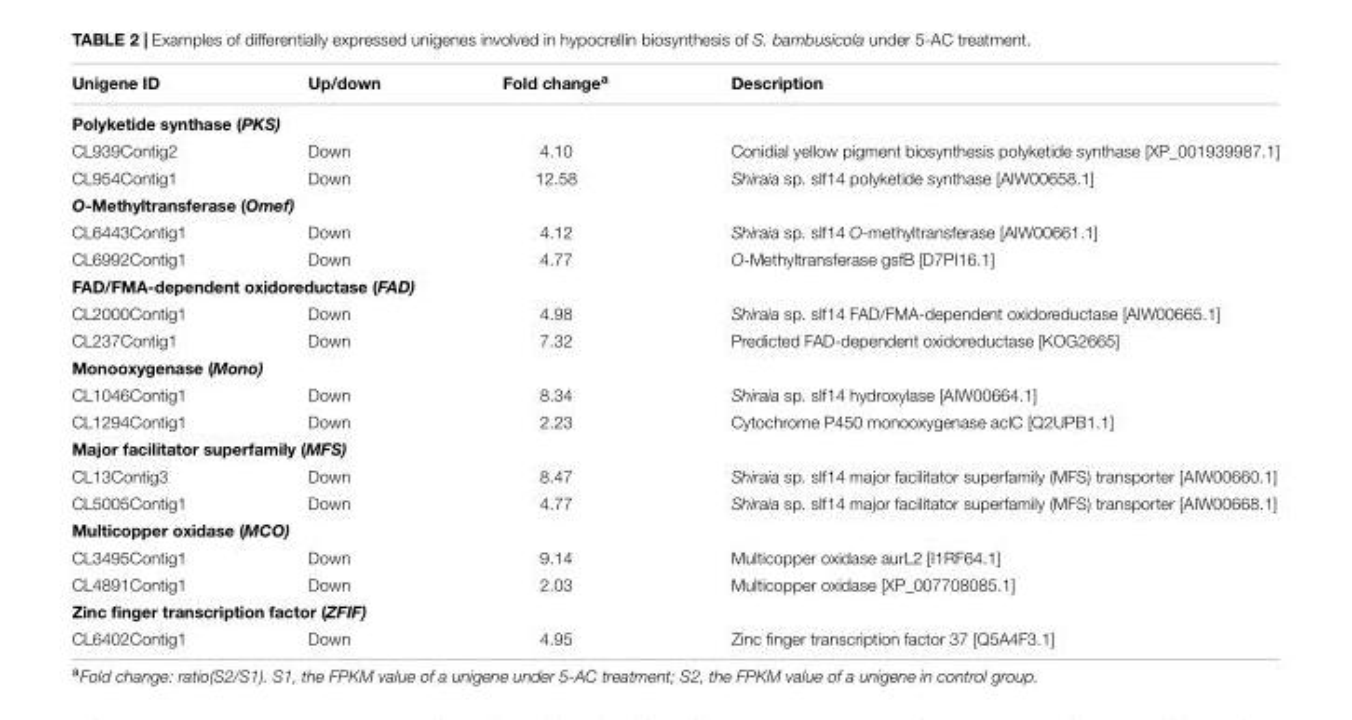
<table><thead><tr><td>Unigene ID</td><td>Up/down</td><td>Fold change<sup>a</sup></td><td>Description</td></tr></thead><tbody><tr><td colspan="4">Polyketide synthase (PKS)</td></tr><tr><td>CL939Contig2</td><td>Down</td><td>4.10</td><td>Conidial yellow pigment biosynthesis polyketide synthase [XP_001939987.1]</td></tr><tr><td>CL954Contig1</td><td>Down</td><td>12.58</td><td>Shiraia sp. slf14 polyketide synthase [AIW00658.1]</td></tr><tr><td colspan="4">O-Methyltransferase (Omef)</td></tr><tr><td>CL6443Contig1</td><td>Down</td><td>4.12</td><td>Shiraia sp. slf14 O-methyltransferase [AIW00661.1]</td></tr><tr><td>CL6992Contig1</td><td>Down</td><td>4.77</td><td>O-Methyltransferase gsfB [D7PI16.1]</td></tr><tr><td colspan="4">FAD/FMA-dependent oxidoreductase (FAD)</td></tr><tr><td>CL2000Contig1</td><td>Down</td><td>4.98</td><td>Shiraia sp. slf14 FAD/FMA-dependent oxidoreductase [AIW00665.1]</td></tr><tr><td>CL237Contig1</td><td>Down</td><td>7.32</td><td>Predicted FAD-dependent oxidoreductase [KOG2665]</td></tr><tr><td colspan="4">Monooxygenase (Mono)</td></tr><tr><td>CL1046Contig1</td><td>Down</td><td>8.34</td><td>Shiraia sp. slf14 hydroxylase [AIW00664.1]</td></tr><tr><td>CL1294Contig1</td><td>Down</td><td>2.23</td><td>Cytochrome P450 monooxygenase aclC [Q2UPB1.1]</td></tr><tr><td colspan="4">Major facilitator superfamily (MFS)</td></tr><tr><td>CL13Contig3</td><td>Down</td><td>8.47</td><td>Shiraia sp. slf14 major facilitator superfamily (MFS) transporter [AIW00660.1]</td></tr><tr><td>CL5005Contig1</td><td>Down</td><td>4.77</td><td>Shiraia sp. slf14 major facilitator superfamily (MFS) transporter [AIW00668.1]</td></tr><tr><td colspan="4">Multicopper oxidase (MCO)</td></tr><tr><td>CL3495Contig1</td><td>Down</td><td>9.14</td><td>Multicopper oxidase aurL2 [I1RF64.1]</td></tr><tr><td>CL4891Contig1</td><td>Down</td><td>2.03</td><td>Multicopper oxidase [XP_007708085.1]</td></tr><tr><td colspan="4">Zinc finger transcription factor (ZFIF)</td></tr><tr><td>CL6402Contig1</td><td>Down</td><td>4.95</td><td>Zinc finger transcription factor 37 [Q5A4F3.1]</td></tr></tbody></table>